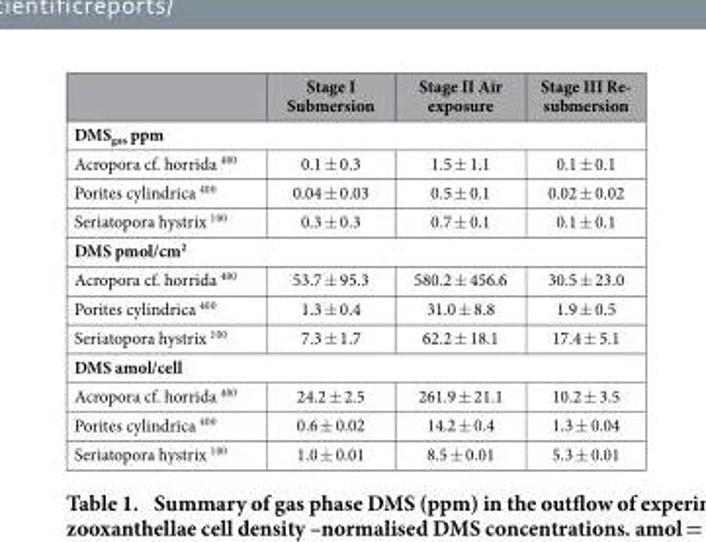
<table><thead><tr><td></td><td>Stage I Submersion</td><td>Stage II Air exposure</td><td>Stage III Re- submersion</td></tr></thead><tbody><tr><td colspan="4">DMS<sub>gas</sub> ppm</td></tr><tr><td>Acropora cf. horrida <sup>400</sup></td><td>0.1 ± 0.3</td><td>1.5 ± 1.1</td><td>0.1 ± 0.1</td></tr><tr><td>Porites cylindrica <sup>400</sup></td><td>0.04 ± 0.03</td><td>0.5 ± 0.1</td><td>0.02 ± 0.02</td></tr><tr><td>Seriatopora hystrix <sup>100</sup></td><td>0.3 ± 0.3</td><td>0.7 ± 0.1</td><td>0.1 ± 0.1</td></tr><tr><td colspan="4">DMS pmol/cm<sup>2</sup></td></tr><tr><td>Acropora cf. horrida <sup>400</sup></td><td>53.7 ± 95.3</td><td>580.2 ± 456.6</td><td>30.5 ± 23.0</td></tr><tr><td>Porites cylindrica <sup>400</sup></td><td>1.3 ± 0.4</td><td>31.0 ± 8.8</td><td>1.9 ± 0.5</td></tr><tr><td>Seriatopora hystrix <sup>100</sup></td><td>7.3 ± 1.7</td><td>62.2 ± 18.1</td><td>17.4 ± 5.1</td></tr><tr><td colspan="4">DMS amol/cell</td></tr><tr><td>Acropora cf. horrida <sup>400</sup></td><td>24.2 ± 2.5</td><td>261.9 ± 21.1</td><td>10.2 ± 3.5</td></tr><tr><td>Porites cylindrica <sup>400</sup></td><td>0.6 ± 0.02</td><td>14.2 ± 0.4</td><td>1.3 ± 0.04</td></tr><tr><td>Seriatopora hystrix <sup>100</sup></td><td>1.0 ± 0.01</td><td>8.5 ± 0.01</td><td>5.3 ± 0.01</td></tr></tbody></table>